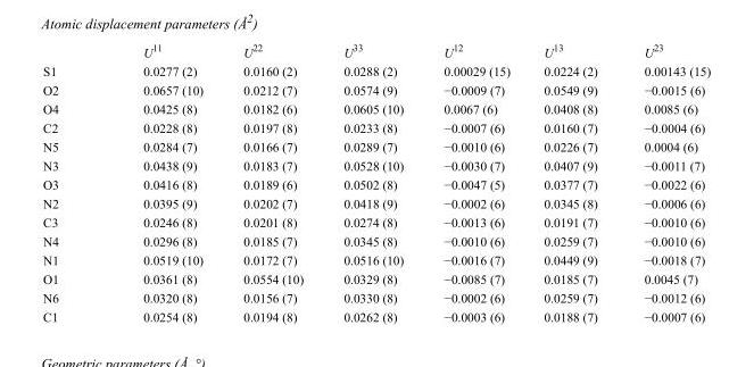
<table><thead><tr><td></td><td>U<sup>11</sup></td><td>U<sup>22</sup></td><td>U<sup>33</sup></td><td>U<sup>12</sup></td><td>U<sup>13</sup></td><td>U<sup>23</sup></td></tr></thead><tbody><tr><td>S1</td><td>0.0277 (2)</td><td>0.0160 (2)</td><td>0.0288 (2)</td><td>0.00029 (15)</td><td>0.0224 (2)</td><td>0.00143 (15)</td></tr><tr><td>O2</td><td>0.0657 (10)</td><td>0.0212 (7)</td><td>0.0574 (9)</td><td>−0.0009 (7)</td><td>0.0549 (9)</td><td>−0.0015 (6)</td></tr><tr><td>O4</td><td>0.0425 (8)</td><td>0.0182 (6)</td><td>0.0605 (10)</td><td>0.0067 (6)</td><td>0.0408 (8)</td><td>0.0085 (6)</td></tr><tr><td>C2</td><td>0.0228 (8)</td><td>0.0197 (8)</td><td>0.0233 (8)</td><td>−0.0007 (6)</td><td>0.0160 (7)</td><td>−0.0004 (6)</td></tr><tr><td>N5</td><td>0.0284 (7)</td><td>0.0166 (7)</td><td>0.0289 (7)</td><td>−0.0010 (6)</td><td>0.0226 (7)</td><td>0.0004 (6)</td></tr><tr><td>N3</td><td>0.0438 (9)</td><td>0.0183 (7)</td><td>0.0528 (10)</td><td>−0.0030 (7)</td><td>0.0407 (9)</td><td>−0.0011 (7)</td></tr><tr><td>O3</td><td>0.0416 (8)</td><td>0.0189 (6)</td><td>0.0502 (8)</td><td>−0.0047 (5)</td><td>0.0377 (7)</td><td>−0.0022 (6)</td></tr><tr><td>N2</td><td>0.0395 (9)</td><td>0.0202 (7)</td><td>0.0418 (9)</td><td>−0.0002 (6)</td><td>0.0345 (8)</td><td>−0.0006 (6)</td></tr><tr><td>C3</td><td>0.0246 (8)</td><td>0.0201 (8)</td><td>0.0274 (8)</td><td>−0.0013 (6)</td><td>0.0191 (7)</td><td>−0.0010 (6)</td></tr><tr><td>N4</td><td>0.0296 (8)</td><td>0.0185 (7)</td><td>0.0345 (8)</td><td>−0.0010 (6)</td><td>0.0259 (7)</td><td>−0.0010 (6)</td></tr><tr><td>N1</td><td>0.0519 (10)</td><td>0.0172 (7)</td><td>0.0516 (10)</td><td>−0.0016 (7)</td><td>0.0449 (9)</td><td>−0.0018 (7)</td></tr><tr><td>O1</td><td>0.0361 (8)</td><td>0.0554 (10)</td><td>0.0329 (8)</td><td>−0.0085 (7)</td><td>0.0185 (7)</td><td>0.0045 (7)</td></tr><tr><td>N6</td><td>0.0320 (8)</td><td>0.0156 (7)</td><td>0.0330 (8)</td><td>−0.0002 (6)</td><td>0.0259 (7)</td><td>−0.0012 (6)</td></tr><tr><td>C1</td><td>0.0254 (8)</td><td>0.0194 (8)</td><td>0.0262 (8)</td><td>−0.0003 (6)</td><td>0.0188 (7)</td><td>−0.0007 (6)</td></tr></tbody></table>